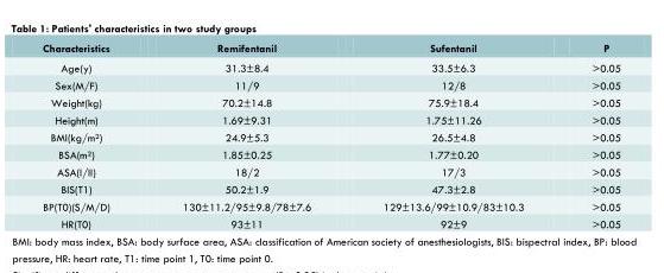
<table><thead><tr><td>Characteristics</td><td>Remifentanil</td><td>Sufentanil</td><td>P</td></tr></thead><tbody><tr><td>Age(y)</td><td>31.3±8.4</td><td>33.5±6.3</td><td>&gt;0.05</td></tr><tr><td>Sex(M/F)</td><td>11/9</td><td>12/8</td><td>&gt;0.05</td></tr><tr><td>Weight(kg)</td><td>70.2±14.8</td><td>75.9±18.4</td><td>&gt;0.05</td></tr><tr><td>Height(m)</td><td>1.69±9.31</td><td>1.75±11.26</td><td>&gt;0.05</td></tr><tr><td>BMI(kg/m²)</td><td>24.9±5.3</td><td>26.5±4.8</td><td>&gt;0.05</td></tr><tr><td>BSA(m²)</td><td>1.85±0.25</td><td>1.77±0.20</td><td>&gt;0.05</td></tr><tr><td>ASA(I/II)</td><td>18/2</td><td>17/3</td><td>&gt;0.05</td></tr><tr><td>BIS(T1)</td><td>50.2±1.9</td><td>47.3±2.8</td><td>&gt;0.05</td></tr><tr><td>BP(T0)(S/M/D)</td><td>130±11.2/95±9.8/78±7.6</td><td>129±13.6/99±10.9/83±10.3</td><td>&gt;0.05</td></tr><tr><td>HR(T0)</td><td>93±11</td><td>92±9</td><td>&gt;0.05</td></tr></tbody></table>